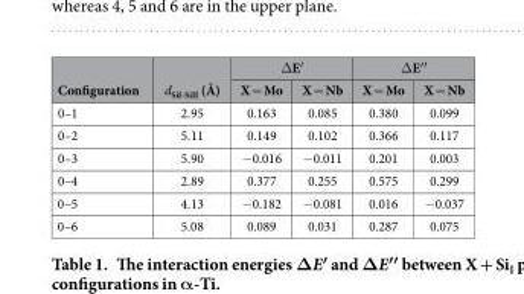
<table><thead><tr><td rowspan="2">Configuration</td><td rowspan="2">d<sub>SiI-SiII</sub> (Å)</td><td colspan="2">Δ E′</td><td colspan="2">Δ E′ ′</td></tr><tr><td>X = Mo</td><td>X = Nb</td><td>X = Mo</td><td>X = Nb</td></tr></thead><tbody><tr><td>0–1</td><td>2.95</td><td>0.163</td><td>0.085</td><td>0.380</td><td>0.099</td></tr><tr><td>0–2</td><td>5.11</td><td>0.149</td><td>0.102</td><td>0.366</td><td>0.117</td></tr><tr><td>0–3</td><td>5.90</td><td>− 0.016</td><td>− 0.011</td><td>0.201</td><td>0.003</td></tr><tr><td>0–4</td><td>2.89</td><td>0.377</td><td>0.255</td><td>0.575</td><td>0.299</td></tr><tr><td>0–5</td><td>4.13</td><td>− 0.182</td><td>− 0.081</td><td>0.016</td><td>− 0.037</td></tr><tr><td>0–6</td><td>5.08</td><td>0.089</td><td>0.031</td><td>0.287</td><td>0.075</td></tr></tbody></table>